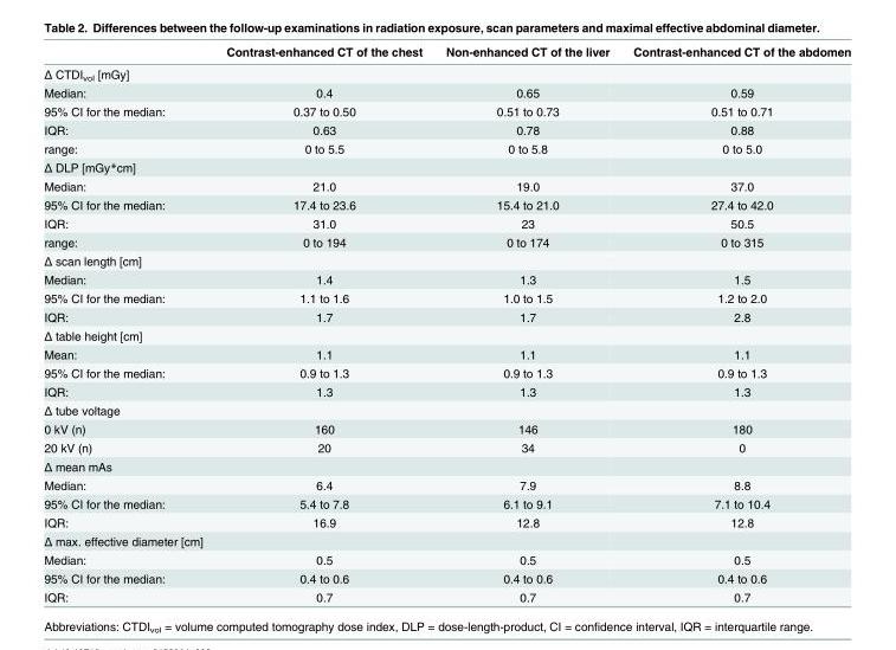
<table><thead><tr><td></td><td>Contrast-enhanced CT of the chest</td><td>Non-enhanced CT of the liver</td><td>Contrast-enhanced CT of the abdomen</td></tr></thead><tbody><tr><td colspan="4">Δ CTDI<sub>vol</sub> [mGy]</td></tr><tr><td>Median:</td><td>0.4</td><td>0.65</td><td>0.59</td></tr><tr><td>95% CI for the median:</td><td>0.37 to 0.50</td><td>0.51 to 0.73</td><td>0.51 to 0.71</td></tr><tr><td>IQR:</td><td>0.63</td><td>0.78</td><td>0.88</td></tr><tr><td>range:</td><td>0 to 5.5</td><td>0 to 5.8</td><td>0 to 5.0</td></tr><tr><td colspan="4">Δ DLP [mGy*cm]</td></tr><tr><td>Median:</td><td>21.0</td><td>19.0</td><td>37.0</td></tr><tr><td>95% CI for the median:</td><td>17.4 to 23.6</td><td>15.4 to 21.0</td><td>27.4 to 42.0</td></tr><tr><td>IQR:</td><td>31.0</td><td>23</td><td>50.5</td></tr><tr><td>range:</td><td>0 to 194</td><td>0 to 174</td><td>0 to 315</td></tr><tr><td colspan="4">Δ scan length [cm]</td></tr><tr><td>Median:</td><td>1.4</td><td>1.3</td><td>1.5</td></tr><tr><td>95% CI for the median:</td><td>1.1 to 1.6</td><td>1.0 to 1.5</td><td>1.2 to 2.0</td></tr><tr><td>IQR:</td><td>1.7</td><td>1.7</td><td>2.8</td></tr><tr><td colspan="4">Δ table height [cm]</td></tr><tr><td>Mean:</td><td>1.1</td><td>1.1</td><td>1.1</td></tr><tr><td>95% CI for the median:</td><td>0.9 to 1.3</td><td>0.9 to 1.3</td><td>0.9 to 1.3</td></tr><tr><td>IQR:</td><td>1.3</td><td>1.3</td><td>1.3</td></tr><tr><td colspan="4">Δ tube voltage</td></tr><tr><td>0 kV (n)</td><td>160</td><td>146</td><td>180</td></tr><tr><td>20 kV (n)</td><td>20</td><td>34</td><td>0</td></tr><tr><td colspan="4">Δ mean mAs</td></tr><tr><td>Median:</td><td>6.4</td><td>7.9</td><td>8.8</td></tr><tr><td>95% CI for the median:</td><td>5.4 to 7.8</td><td>6.1 to 9.1</td><td>7.1 to 10.4</td></tr><tr><td>IQR:</td><td>16.9</td><td>12.8</td><td>12.8</td></tr><tr><td colspan="4">Δ max. effective diameter [cm]</td></tr><tr><td>Median:</td><td>0.5</td><td>0.5</td><td>0.5</td></tr><tr><td>95% CI for the median:</td><td>0.4 to 0.6</td><td>0.4 to 0.6</td><td>0.4 to 0.6</td></tr><tr><td>IQR:</td><td>0.7</td><td>0.7</td><td>0.7</td></tr></tbody></table>